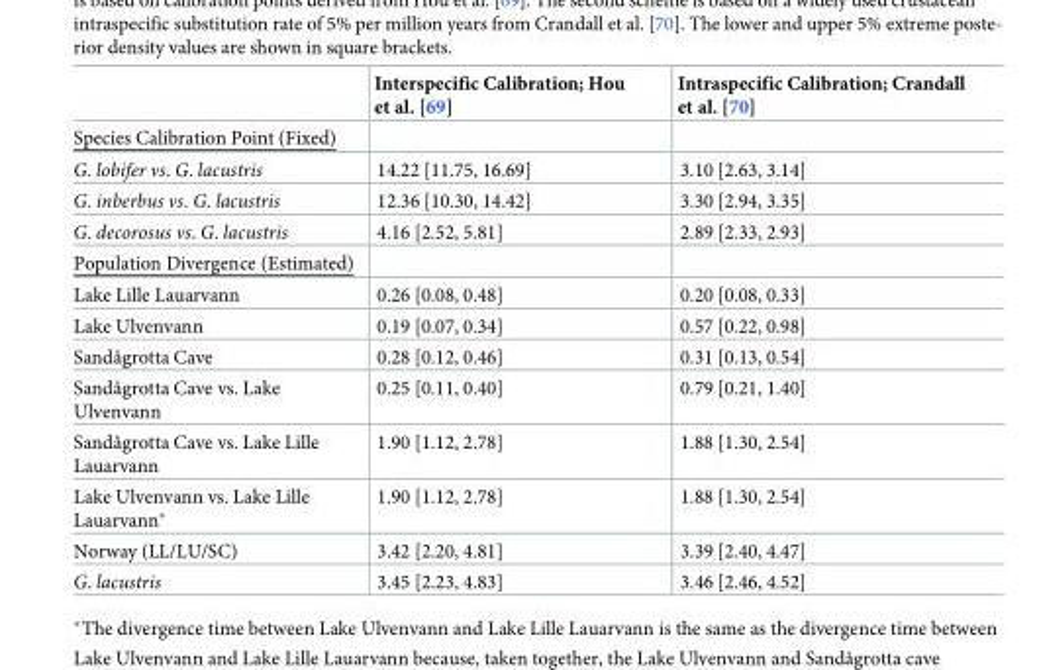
<table><thead><tr><td></td><td>Interspecific Calibration; Hou et al. [69]</td><td>Intraspecific Calibration; Crandall et al. [70]</td></tr></thead><tbody><tr><td colspan="3">Species Calibration Point (Fixed)</td></tr><tr><td>G. lobifer vs. G. lacustris</td><td>14.22 [11.75, 16.69]</td><td>3.10 [2.63, 3.14]</td></tr><tr><td>G. inberbus vs. G. lacustris</td><td>12.36 [10.30, 14.42]</td><td>3.30 [2.94, 3.35]</td></tr><tr><td>G. decorosus vs. G. lacustris</td><td>4.16 [2.52, 5.81]</td><td>2.89 [2.33, 2.93]</td></tr><tr><td colspan="3">Population Divergence (Estimated)</td></tr><tr><td>Lake Lille Lauarvann</td><td>0.26 [0.08, 0.48]</td><td>0.20 [0.08, 0.33]</td></tr><tr><td>Lake Ulvenvann</td><td>0.19 [0.07, 0.34]</td><td>0.57 [0.22, 0.98]</td></tr><tr><td>Sandågrotta Cave</td><td>0.28 [0.12, 0.46]</td><td>0.31 [0.13, 0.54]</td></tr><tr><td>Sandågrotta Cave vs. Lake Ulvenvann</td><td>0.25 [0.11, 0.40]</td><td>0.79 [0.21, 1.40]</td></tr><tr><td>Sandågrotta Cave vs. Lake Lille Lauarvann</td><td>1.90 [1.12, 2.78]</td><td>1.88 [1.30, 2.54]</td></tr><tr><td>Lake Ulvenvann vs. Lake Lille Lauarvann*</td><td>1.90 [1.12, 2.78]</td><td>1.88 [1.30, 2.54]</td></tr><tr><td>Norway (LL/LU/SC)</td><td>3.42 [2.20, 4.81]</td><td>3.39 [2.40, 4.47]</td></tr><tr><td>G. lacustris</td><td>3.45 [2.23, 4.83]</td><td>3.46 [2.46, 4.52]</td></tr></tbody></table>